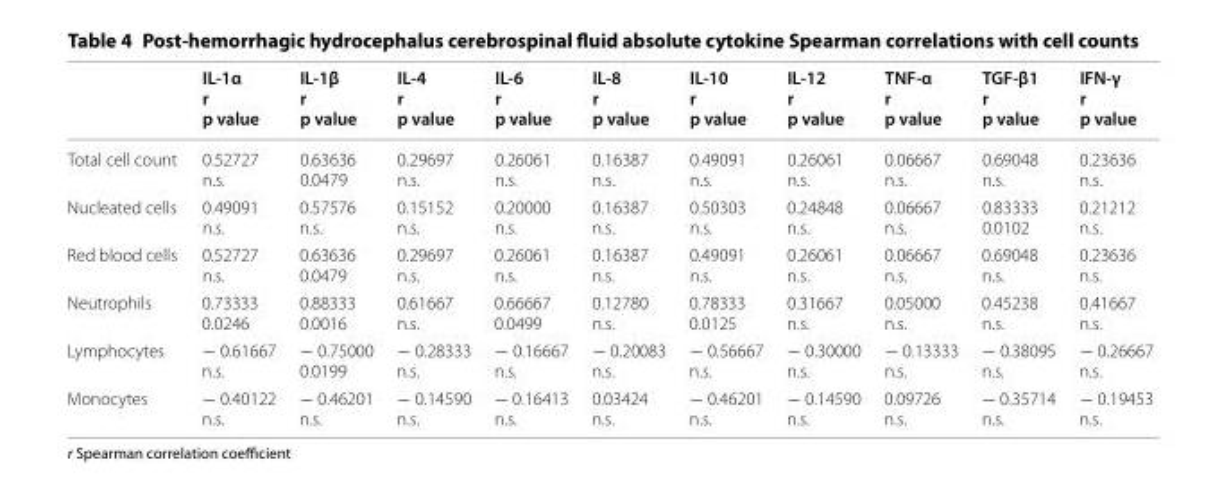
<table><thead><tr><td></td><td>IL-1α r p value</td><td>IL-1β r p value</td><td>IL-4 r p value</td><td>IL-6 r p value</td><td>IL-8 r p value</td><td>IL-10 r p value</td><td>IL-12 r p value</td><td>TNF-α r p value</td><td>TGF-β1 r p value</td><td>IFN-γ r p value</td></tr></thead><tbody><tr><td>Total cell count</td><td>0.52727 n.s.</td><td>0.63636 0.0479</td><td>0.29697 n.s.</td><td>0.26061 n.s.</td><td>0.16387 n.s.</td><td>0.49091 n.s.</td><td>0.26061 n.s.</td><td>0.06667 n.s.</td><td>0.69048 n.s.</td><td>0.23636 n.s.</td></tr><tr><td>Nucleated cells</td><td>0.49091 n.s.</td><td>0.57576 n.s.</td><td>0.15152 n.s.</td><td>0.20000 n.s.</td><td>0.16387 n.s.</td><td>0.50303 n.s.</td><td>0.24848 n.s.</td><td>0.06667 n.s.</td><td>0.83333 0.0102</td><td>0.21212 n.s.</td></tr><tr><td>Red blood cells</td><td>0.52727 n.s.</td><td>0.63636 0.0479</td><td>0.29697 n.s.</td><td>0.26061 n.s.</td><td>0.16387 n.s.</td><td>0.49091 n.s.</td><td>0.26061 n.s.</td><td>0.06667 n.s.</td><td>0.69048 n.s.</td><td>0.23636 n.s.</td></tr><tr><td>Neutrophils</td><td>0.73333 0.0246</td><td>0.88333 0.0016</td><td>0.61667 n.s.</td><td>0.66667 0.0499</td><td>0.12780 n.s.</td><td>0.78333 0.0125</td><td>0.31667 n.s.</td><td>0.05000 n.s.</td><td>0.45238 n.s.</td><td>0.41667 n.s.</td></tr><tr><td>Lymphocytes</td><td>− 0.61667 n.s.</td><td>− 0.75000 0.0199</td><td>− 0.28333 n.s.</td><td>− 0.16667 n.s.</td><td>− 0.20083 n.s.</td><td>− 0.56667 n.s.</td><td>− 0.30000 n.s.</td><td>− 0.13333 n.s.</td><td>− 0.38095 n.s.</td><td>− 0.26667 n.s.</td></tr><tr><td>Monocytes</td><td>− 0.40122 n.s.</td><td>− 0.46201 n.s.</td><td>− 0.14590 n.s.</td><td>− 0.16413 n.s.</td><td>0.03424 n.s.</td><td>− 0.46201 n.s.</td><td>− 0.14590 n.s.</td><td>0.09726 n.s.</td><td>− 0.35714 n.s.</td><td>− 0.19453 n.s.</td></tr></tbody></table>